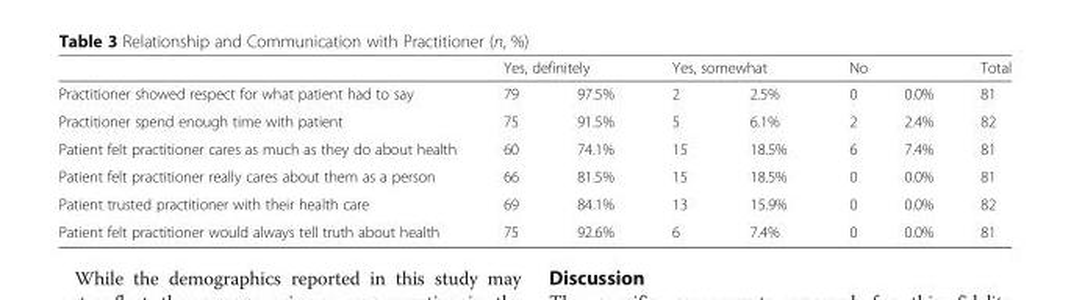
<table><thead><tr><td rowspan="2">Practitioner showed respect for what patient had to say</td><td colspan="2">Yes, definitely</td><td colspan="2">Yes, somewhat</td><td colspan="2">No</td><td rowspan="2">Total 81</td></tr><tr><td>79</td><td>97.5%</td><td>2</td><td>2.5%</td><td>0</td><td>0.0%</td></tr></thead><tbody><tr><td>Practitioner spend enough time with patient</td><td>75</td><td>91.5%</td><td>5</td><td>6.1%</td><td>2</td><td>2.4%</td><td>82</td></tr><tr><td>Patient felt practitioner cares as much as they do about health</td><td>60</td><td>74.1%</td><td>15</td><td>18.5%</td><td>6</td><td>7.4%</td><td>81</td></tr><tr><td>Patient felt practitioner really cares about them as a person</td><td>66</td><td>81.5%</td><td>15</td><td>18.5%</td><td>0</td><td>0.0%</td><td>81</td></tr><tr><td>Patient trusted practitioner with their health care</td><td>69</td><td>84.1%</td><td>13</td><td>15.9%</td><td>0</td><td>0.0%</td><td>82</td></tr><tr><td>Patient felt practitioner would always tell truth about health</td><td>75</td><td>92.6%</td><td>6</td><td>7.4%</td><td>0</td><td>0.0%</td><td>81</td></tr></tbody></table>